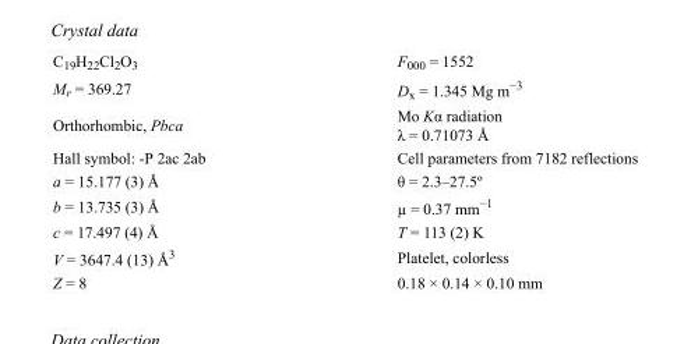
<table><tbody><tr><td>C<sub>19</sub>H<sub>22</sub>Cl<sub>2</sub>O<sub>3</sub></td><td>F000 = 1552</td></tr><tr><td>M<sub>r</sub> = 369.27</td><td>D<sub>x</sub> = 1.345 Mg m<sup>−3</sup></td></tr><tr><td>Orthorhombic, Pbca</td><td>Mo Kα radiation λ = 0.71073 Å</td></tr><tr><td>Hall symbol: -P 2ac 2ab</td><td>Cell parameters from 7182 reflections</td></tr><tr><td>a = 15.177 (3) Å</td><td>θ = 2.3–27.5º</td></tr><tr><td>b = 13.735 (3) Å</td><td>µ = 0.37 mm<sup>−1</sup></td></tr><tr><td>c = 17.497 (4) Å</td><td>T = 113 (2) K</td></tr><tr><td>V = 3647.4 (13) Å<sup>3</sup></td><td>Platelet, colorless</td></tr><tr><td>Z = 8</td><td>0.18 × 0.14 × 0.10 mm</td></tr></tbody></table>